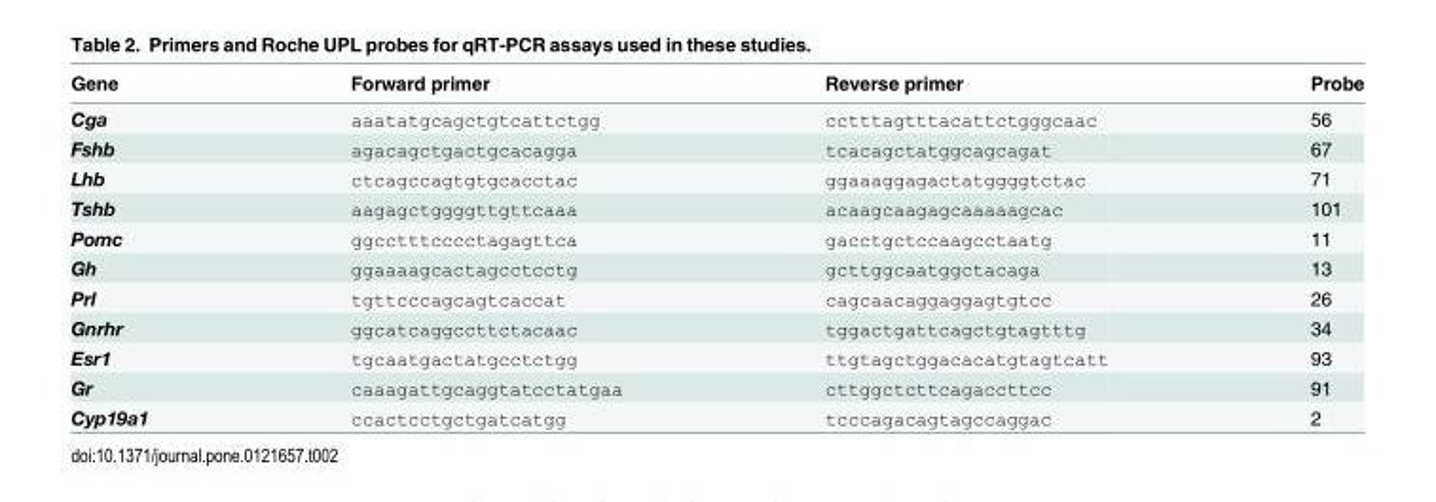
<table><thead><tr><td>Gene</td><td>Forward primer</td><td>Reverse primer</td><td>Probe</td></tr></thead><tbody><tr><td>Cga</td><td>aaatatgcagctgtcattctgg</td><td>cctttagtttacattctgggcaac</td><td>56</td></tr><tr><td>Fshb</td><td>agacagctgactgcacagga</td><td>tcacagctatggcagcagat</td><td>67</td></tr><tr><td>Lhb</td><td>ctcagccagtgtgcacctac</td><td>ggaaaggagactatggggtctac</td><td>71</td></tr><tr><td>Tshb</td><td>aagagctggggttgttcaaa</td><td>acaagcaagagcaaaaagcac</td><td>101</td></tr><tr><td>Pomc</td><td>ggcctttcccctagagttca</td><td>gacctgctccaagcctaatg</td><td>11</td></tr><tr><td>Gh</td><td>ggaaaagcactagcctcctg</td><td>gcttggcaatggctacaga</td><td>13</td></tr><tr><td>Prl</td><td>tgttcccagcagtcaccat</td><td>cagcaacaggaggagtgtcc</td><td>26</td></tr><tr><td>Gnrhr</td><td>ggcatcaggccttctacaac</td><td>tggactgattcagctgtagtttg</td><td>34</td></tr><tr><td>Esr1</td><td>tgcaatgactatgcctctgg</td><td>ttgtagctggacacatgtagtcatt</td><td>93</td></tr><tr><td>Gr</td><td>caaagattgcaggtatcctatgaa</td><td>cttggctcttcagaccttcc</td><td>91</td></tr><tr><td>Cyp19a1</td><td>ccactcctgctgatcatgg</td><td>tcccagacagtagccaggac</td><td>2</td></tr></tbody></table>